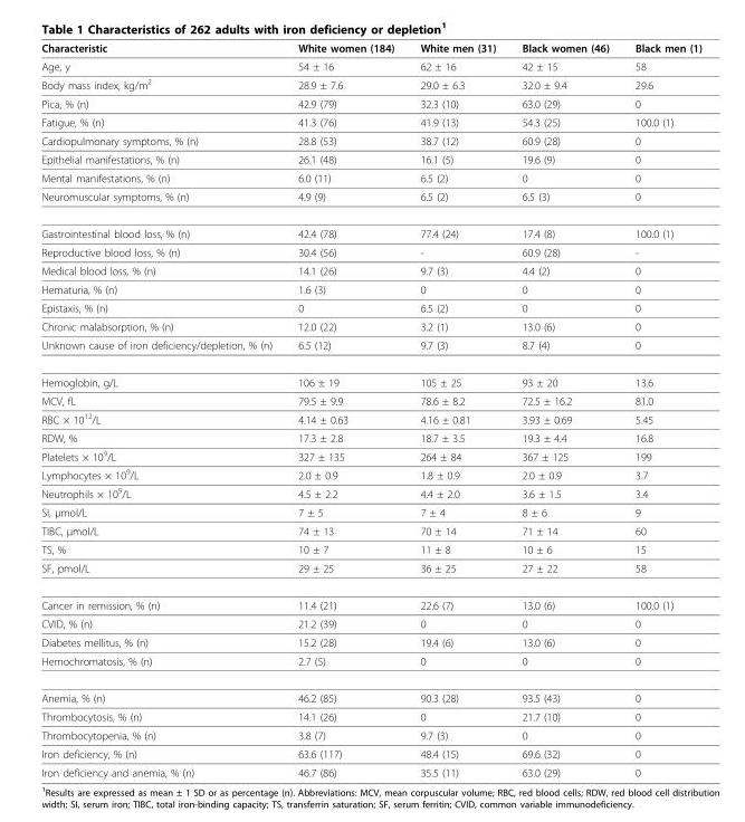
<table><thead><tr><td>Characteristic</td><td>White women (184)</td><td>White men (31)</td><td>Black women (46)</td><td>Black men (1)</td></tr></thead><tbody><tr><td>Age, y</td><td>54 ± 16</td><td>62 ± 16</td><td>42 ± 15</td><td>58</td></tr><tr><td>Body mass index, kg/m2</td><td>28.9 ± 7.6</td><td>29.0 ± 6.3</td><td>32.0 ± 9.4</td><td>29.6</td></tr><tr><td>Pica, % (n)</td><td>42.9 (79)</td><td>32.3 (10)</td><td>63.0 (29)</td><td>0</td></tr><tr><td>Fatigue, % (n)</td><td>41.3 (76)</td><td>41.9 (13)</td><td>54.3 (25)</td><td>100.0 (1)</td></tr><tr><td>Cardiopulmonary symptoms, % (n)</td><td>28.8 (53)</td><td>38.7 (12)</td><td>60.9 (28)</td><td>0</td></tr><tr><td>Epithelial manifestations, % (n)</td><td>26.1 (48)</td><td>16.1 (5)</td><td>19.6 (9)</td><td>0</td></tr><tr><td>Mental manifestations, % (n)</td><td>6.0 (11)</td><td>6.5 (2)</td><td>0</td><td>0</td></tr><tr><td>Neuromuscular symptoms, % (n)</td><td>4.9 (9)</td><td>6.5 (2)</td><td>6.5 (3)</td><td>0</td></tr><tr><td>Gastrointestinal blood loss, % (n)</td><td>42.4 (78)</td><td>77.4 (24)</td><td>17.4 (8)</td><td>100.0 (1)</td></tr><tr><td>Reproductive blood loss, % (n)</td><td>30.4 (56)</td><td>-</td><td>60.9 (28)</td><td>-</td></tr><tr><td>Medical blood loss, % (n)</td><td>14.1 (26)</td><td>9.7 (3)</td><td>4.4 (2)</td><td>0</td></tr><tr><td>Hematuria, % (n)</td><td>1.6 (3)</td><td>0</td><td>0</td><td>0</td></tr><tr><td>Epistaxis, % (n)</td><td>0</td><td>6.5 (2)</td><td>0</td><td>0</td></tr><tr><td>Chronic malabsorption, % (n)</td><td>12.0 (22)</td><td>3.2 (1)</td><td>13.0 (6)</td><td>0</td></tr><tr><td>Unknown cause of iron deficiency/depletion, % (n)</td><td>6.5 (12)</td><td>9.7 (3)</td><td>8.7 (4)</td><td>0</td></tr><tr><td>Hemoglobin, g/L</td><td>106 ± 19</td><td>105 ± 25</td><td>93 ± 20</td><td>13.6</td></tr><tr><td>MCV, fL</td><td>79.5 ± 9.9</td><td>78.6 ± 8.2</td><td>72.5 ± 16.2</td><td>81.0</td></tr><tr><td>RBC × 1012/L</td><td>4.14 ± 0.63</td><td>4.16 ± 0.81</td><td>3.93 ± 0.69</td><td>5.45</td></tr><tr><td>RDW, %</td><td>17.3 ± 2.8</td><td>18.7 ± 3.5</td><td>19.3 ± 4.4</td><td>16.8</td></tr><tr><td>Platelets × 109/L</td><td>327 ± 135</td><td>264 ± 84</td><td>367 ± 125</td><td>199</td></tr><tr><td>Lymphocytes × 109/L</td><td>2.0 ± 0.9</td><td>1.8 ± 0.9</td><td>2.0 ± 0.9</td><td>3.7</td></tr><tr><td>Neutrophils × 109/L</td><td>4.5 ± 2.2</td><td>4.4 ± 2.0</td><td>3.6 ± 1.5</td><td>3.4</td></tr><tr><td>SI, μmol/L</td><td>7 ± 5</td><td>7 ± 4</td><td>8 ± 6</td><td>9</td></tr><tr><td>TIBC, μmol/L</td><td>74 ± 13</td><td>70 ± 14</td><td>71 ± 14</td><td>60</td></tr><tr><td>TS, %</td><td>10 ± 7</td><td>11 ± 8</td><td>10 ± 6</td><td>15</td></tr><tr><td>SF, pmol/L</td><td>29 ± 25</td><td>36 ± 25</td><td>27 ± 22</td><td>58</td></tr><tr><td>Cancer in remission, % (n)</td><td>11.4 (21)</td><td>22.6 (7)</td><td>13.0 (6)</td><td>100.0 (1)</td></tr><tr><td>CVID, % (n)</td><td>21.2 (39)</td><td>0</td><td>0</td><td>0</td></tr><tr><td>Diabetes mellitus, % (n)</td><td>15.2 (28)</td><td>19.4 (6)</td><td>13.0 (6)</td><td>0</td></tr><tr><td>Hemochromatosis, % (n)</td><td>2.7 (5)</td><td>0</td><td>0</td><td>0</td></tr><tr><td>Anemia, % (n)</td><td>46.2 (85)</td><td>90.3 (28)</td><td>93.5 (43)</td><td>0</td></tr><tr><td>Thrombocytosis, % (n)</td><td>14.1 (26)</td><td>0</td><td>21.7 (10)</td><td>0</td></tr><tr><td>Thrombocytopenia, % (n)</td><td>3.8 (7)</td><td>9.7 (3)</td><td>0</td><td>0</td></tr><tr><td>Iron deficiency, % (n)</td><td>63.6 (117)</td><td>48.4 (15)</td><td>69.6 (32)</td><td>0</td></tr><tr><td>Iron deficiency and anemia, % (n)</td><td>46.7 (86)</td><td>35.5 (11)</td><td>63.0 (29)</td><td>0</td></tr></tbody></table>